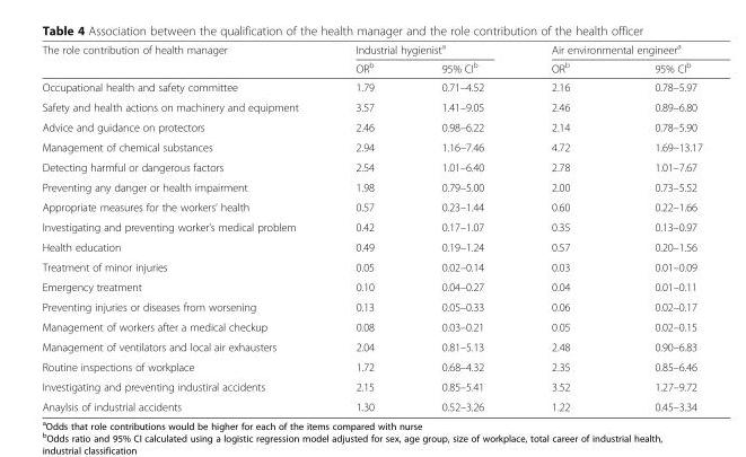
<table><thead><tr><td rowspan="2">The role contribution of health manager</td><td colspan="2">Industrial hygienist<sup>a</sup></td><td colspan="2">Air environmental engineer<sup>a</sup></td></tr><tr><td>OR<sup>b</sup></td><td>95% CI<sup>b</sup></td><td>OR<sup>b</sup></td><td>95% CI<sup>b</sup></td></tr></thead><tbody><tr><td>Occupational health and safety committee</td><td>1.79</td><td>0.71–4.52</td><td>2.16</td><td>0.78–5.97</td></tr><tr><td>Safety and health actions on machinery and equipment</td><td>3.57</td><td>1.41–9.05</td><td>2.46</td><td>0.89–6.80</td></tr><tr><td>Advice and guidance on protectors</td><td>2.46</td><td>0.98–6.22</td><td>2.14</td><td>0.78–5.90</td></tr><tr><td>Management of chemical substances</td><td>2.94</td><td>1.16–7.46</td><td>4.72</td><td>1.69–13.17</td></tr><tr><td>Detecting harmful or dangerous factors</td><td>2.54</td><td>1.01–6.40</td><td>2.78</td><td>1.01–7.67</td></tr><tr><td>Preventing any danger or health impairment</td><td>1.98</td><td>0.79–5.00</td><td>2.00</td><td>0.73–5.52</td></tr><tr><td>Appropriate measures for the workers’ health</td><td>0.57</td><td>0.23–1.44</td><td>0.60</td><td>0.22–1.66</td></tr><tr><td>Investigating and preventing worker’s medical problem</td><td>0.42</td><td>0.17–1.07</td><td>0.35</td><td>0.13–0.97</td></tr><tr><td>Health education</td><td>0.49</td><td>0.19–1.24</td><td>0.57</td><td>0.20–1.56</td></tr><tr><td>Treatment of minor injuries</td><td>0.05</td><td>0.02–0.14</td><td>0.03</td><td>0.01–0.09</td></tr><tr><td>Emergency treatment</td><td>0.10</td><td>0.04–0.27</td><td>0.04</td><td>0.01–0.11</td></tr><tr><td>Preventing injuries or diseases from worsening</td><td>0.13</td><td>0.05–0.33</td><td>0.06</td><td>0.02–0.17</td></tr><tr><td>Management of workers after a medical checkup</td><td>0.08</td><td>0.03–0.21</td><td>0.05</td><td>0.02–0.15</td></tr><tr><td>Management of ventilators and local air exhausters</td><td>2.04</td><td>0.81–5.13</td><td>2.48</td><td>0.90–6.83</td></tr><tr><td>Routine inspections of workplace</td><td>1.72</td><td>0.68–4.32</td><td>2.35</td><td>0.85–6.46</td></tr><tr><td>Investigating and preventing industiral accidents</td><td>2.15</td><td>0.85–5.41</td><td>3.52</td><td>1.27–9.72</td></tr><tr><td>Anaylsis of industrial accidents</td><td>1.30</td><td>0.52–3.26</td><td>1.22</td><td>0.45–3.34</td></tr></tbody></table>